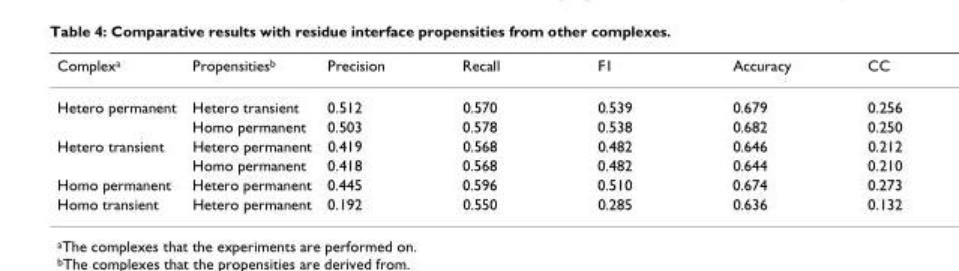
<table><thead><tr><td>Complex<sup>a</sup></td><td>Propensities<sup>b</sup></td><td>Precision</td><td>Recall</td><td>F1</td><td>Accuracy</td><td>CC</td></tr></thead><tbody><tr><td rowspan="2">Hetero permanent</td><td>Hetero transient</td><td>0.512</td><td>0.570</td><td>0.539</td><td>0.679</td><td>0.256</td></tr><tr><td>Homo permanent</td><td>0.503</td><td>0.578</td><td>0.538</td><td>0.682</td><td>0.250</td></tr><tr><td rowspan="2">Hetero transient</td><td>Hetero permanent</td><td>0.419</td><td>0.568</td><td>0.482</td><td>0.646</td><td>0.212</td></tr><tr><td>Homo permanent</td><td>0.418</td><td>0.568</td><td>0.482</td><td>0.644</td><td>0.210</td></tr><tr><td>Homo permanent</td><td>Hetero permanent</td><td>0.445</td><td>0.596</td><td>0.510</td><td>0.674</td><td>0.273</td></tr><tr><td>Homo transient</td><td>Hetero permanent</td><td>0.192</td><td>0.550</td><td>0.285</td><td>0.636</td><td>0.132</td></tr></tbody></table>